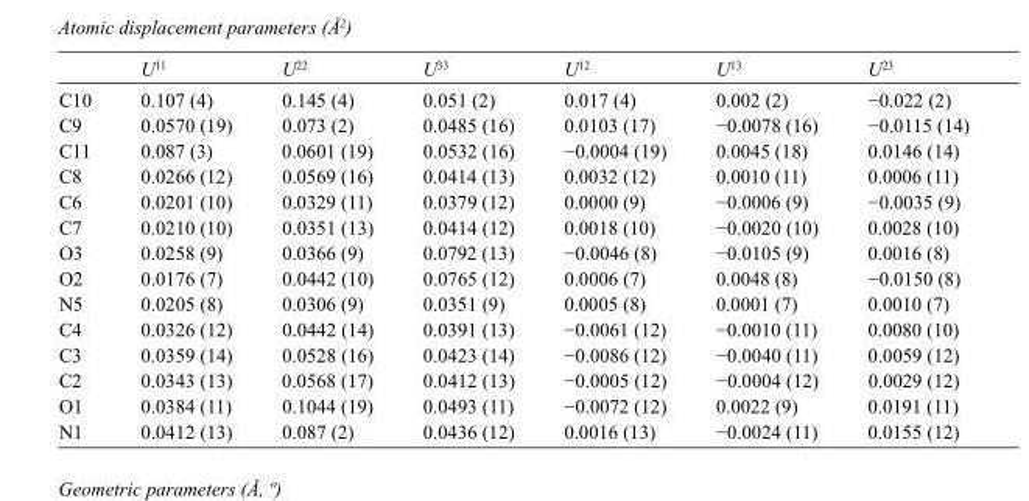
<table><thead><tr><td></td><td>U<sup>11</sup></td><td>U<sup>22</sup></td><td>U<sup>33</sup></td><td>U<sup>12</sup></td><td>U<sup>13</sup></td><td>U<sup>23</sup></td></tr></thead><tbody><tr><td>C10</td><td>0.107 (4)</td><td>0.145 (4)</td><td>0.051 (2)</td><td>0.017 (4)</td><td>0.002 (2)</td><td>−0.022 (2)</td></tr><tr><td>C9</td><td>0.0570 (19)</td><td>0.073 (2)</td><td>0.0485 (16)</td><td>0.0103 (17)</td><td>−0.0078 (16)</td><td>−0.0115 (14)</td></tr><tr><td>C11</td><td>0.087 (3)</td><td>0.0601 (19)</td><td>0.0532 (16)</td><td>−0.0004 (19)</td><td>0.0045 (18)</td><td>0.0146 (14)</td></tr><tr><td>C8</td><td>0.0266 (12)</td><td>0.0569 (16)</td><td>0.0414 (13)</td><td>0.0032 (12)</td><td>0.0010 (11)</td><td>0.0006 (11)</td></tr><tr><td>C6</td><td>0.0201 (10)</td><td>0.0329 (11)</td><td>0.0379 (12)</td><td>0.0000 (9)</td><td>−0.0006 (9)</td><td>−0.0035 (9)</td></tr><tr><td>C7</td><td>0.0210 (10)</td><td>0.0351 (13)</td><td>0.0414 (12)</td><td>0.0018 (10)</td><td>−0.0020 (10)</td><td>0.0028 (10)</td></tr><tr><td>O3</td><td>0.0258 (9)</td><td>0.0366 (9)</td><td>0.0792 (13)</td><td>−0.0046 (8)</td><td>−0.0105 (9)</td><td>0.0016 (8)</td></tr><tr><td>O2</td><td>0.0176 (7)</td><td>0.0442 (10)</td><td>0.0765 (12)</td><td>0.0006 (7)</td><td>0.0048 (8)</td><td>−0.0150 (8)</td></tr><tr><td>N5</td><td>0.0205 (8)</td><td>0.0306 (9)</td><td>0.0351 (9)</td><td>0.0005 (8)</td><td>0.0001 (7)</td><td>0.0010 (7)</td></tr><tr><td>C4</td><td>0.0326 (12)</td><td>0.0442 (14)</td><td>0.0391 (13)</td><td>−0.0061 (12)</td><td>−0.0010 (11)</td><td>0.0080 (10)</td></tr><tr><td>C3</td><td>0.0359 (14)</td><td>0.0528 (16)</td><td>0.0423 (14)</td><td>−0.0086 (12)</td><td>−0.0040 (11)</td><td>0.0059 (12)</td></tr><tr><td>C2</td><td>0.0343 (13)</td><td>0.0568 (17)</td><td>0.0412 (13)</td><td>−0.0005 (12)</td><td>−0.0004 (12)</td><td>0.0029 (12)</td></tr><tr><td>O1</td><td>0.0384 (11)</td><td>0.1044 (19)</td><td>0.0493 (11)</td><td>−0.0072 (12)</td><td>0.0022 (9)</td><td>0.0191 (11)</td></tr><tr><td>N1</td><td>0.0412 (13)</td><td>0.087 (2)</td><td>0.0436 (12)</td><td>0.0016 (13)</td><td>−0.0024 (11)</td><td>0.0155 (12)</td></tr></tbody></table>